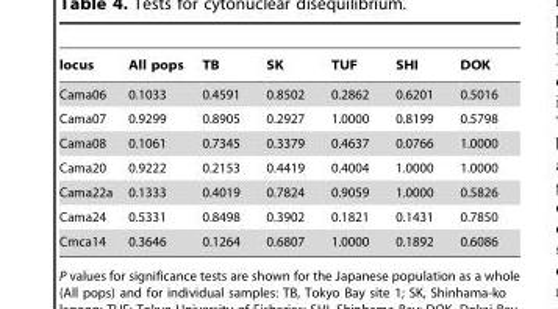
<table><thead><tr><td>locus</td><td>All pops</td><td>TB</td><td>SK</td><td>TUF</td><td>SHI</td><td>DOK</td></tr></thead><tbody><tr><td>Cama06</td><td>0.1033</td><td>0.4591</td><td>0.8502</td><td>0.2862</td><td>0.6201</td><td>0.5016</td></tr><tr><td>Cama07</td><td>0.9299</td><td>0.8905</td><td>0.2927</td><td>1.0000</td><td>0.8199</td><td>0.5798</td></tr><tr><td>Cama08</td><td>0.1061</td><td>0.7345</td><td>0.3379</td><td>0.4637</td><td>0.0766</td><td>1.0000</td></tr><tr><td>Cama20</td><td>0.9222</td><td>0.2153</td><td>0.4419</td><td>0.4004</td><td>1.0000</td><td>1.0000</td></tr><tr><td>Cama22a</td><td>0.1333</td><td>0.4019</td><td>0.7824</td><td>0.9059</td><td>1.0000</td><td>0.5826</td></tr><tr><td>Cama24</td><td>0.5331</td><td>0.8498</td><td>0.3902</td><td>0.1821</td><td>0.1431</td><td>0.7850</td></tr><tr><td>Cmca14</td><td>0.3646</td><td>0.1264</td><td>0.6807</td><td>1.0000</td><td>0.1892</td><td>0.6086</td></tr></tbody></table>